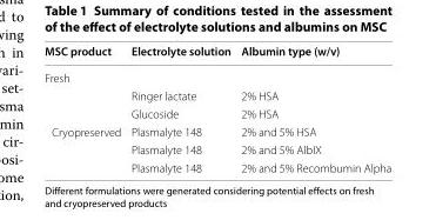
<table><thead><tr><td>MSC product</td><td>Electrolyte solution</td><td>Albumin type (w/v)</td></tr></thead><tbody><tr><td colspan="3">Fresh</td></tr><tr><td rowspan="2"></td><td>Ringer lactate</td><td>2% HSA</td></tr><tr><td>Glucoside</td><td>2% HSA</td></tr><tr><td rowspan="3">Cryopreserved</td><td>Plasmalyte 148</td><td>2% and 5% HSA</td></tr><tr><td>Plasmalyte 148</td><td>2% and 5% AlbIX</td></tr><tr><td>Plasmalyte 148</td><td>2% and 5% Recombumin Alpha</td></tr></tbody></table>